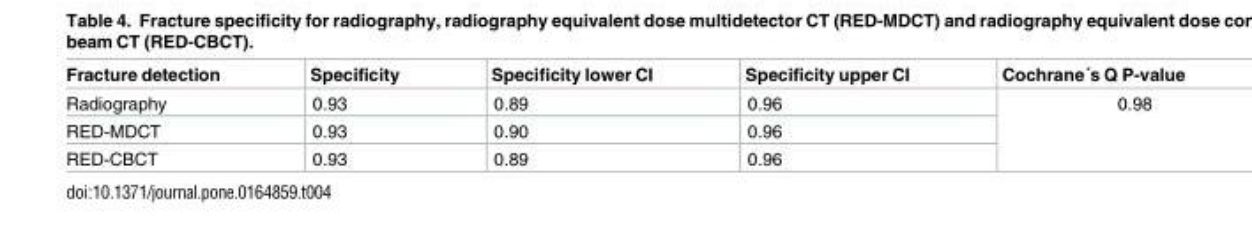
<table><thead><tr><td>Fracture detection</td><td>Specificity</td><td>Specificity lower CI</td><td>Specificity upper CI</td><td>Cochrane´s Q P-value</td></tr></thead><tbody><tr><td>Radiography</td><td>0.93</td><td>0.89</td><td>0.96</td><td rowspan="3">0.98</td></tr><tr><td>RED-MDCT</td><td>0.93</td><td>0.90</td><td>0.96</td></tr><tr><td>RED-CBCT</td><td>0.93</td><td>0.89</td><td>0.96</td></tr></tbody></table>